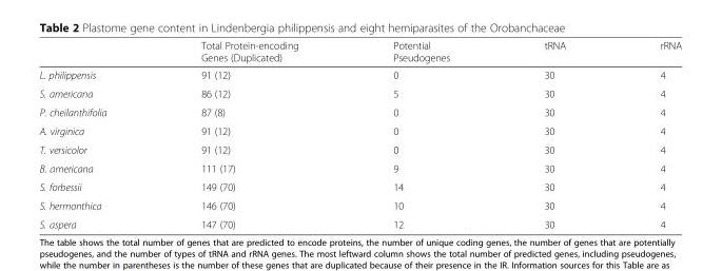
<table><thead><tr><td></td><td>Total Protein-encoding Genes (Duplicated)</td><td>Potential Pseudogenes</td><td>tRNA</td><td>rRNA</td></tr></thead><tbody><tr><td>L. philippensis</td><td>91 (12)</td><td>0</td><td>30</td><td>4</td></tr><tr><td>S. americana</td><td>86 (12)</td><td>5</td><td>30</td><td>4</td></tr><tr><td>P. cheilanthifolia</td><td>87 (8)</td><td>0</td><td>30</td><td>4</td></tr><tr><td>A. virginica</td><td>91 (12)</td><td>0</td><td>30</td><td>4</td></tr><tr><td>T. versicolor</td><td>91 (12)</td><td>0</td><td>30</td><td>4</td></tr><tr><td>B. americana</td><td>111 (17)</td><td>9</td><td>30</td><td>4</td></tr><tr><td>S. forbessii</td><td>149 (70)</td><td>14</td><td>30</td><td>4</td></tr><tr><td>S. hermonthica</td><td>146 (70)</td><td>10</td><td>30</td><td>4</td></tr><tr><td>S. aspera</td><td>147 (70)</td><td>12</td><td>30</td><td>4</td></tr></tbody></table>